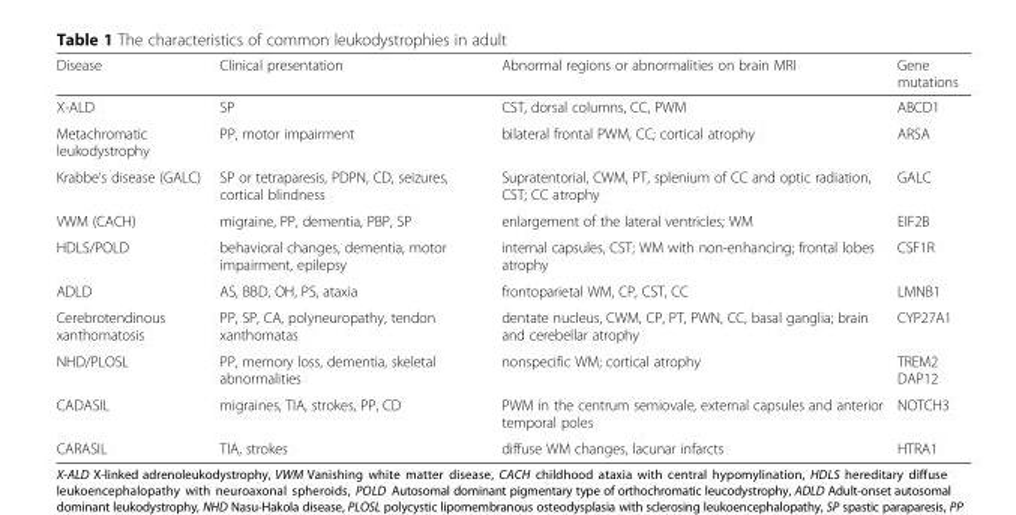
<table><thead><tr><td>Disease</td><td>Clinical presentation</td><td>Abnormal regions or abnormalities on brain MRI</td><td>Gene mutations</td></tr></thead><tbody><tr><td>X-ALD</td><td>SP</td><td>CST, dorsal columns, CC, PWM</td><td>ABCD1</td></tr><tr><td>Metachromatic leukodystrophy</td><td>PP, motor impairment</td><td>bilateral frontal PWM, CC; cortical atrophy</td><td>ARSA</td></tr><tr><td>Krabbe’s disease (GALC)</td><td>SP or tetraparesis, PDPN, CD, seizures, cortical blindness</td><td>Supratentorial, CWM, PT, splenium of CC and optic radiation, CST; CC atrophy</td><td>GALC</td></tr><tr><td>VWM (CACH)</td><td>migraine, PP, dementia, PBP, SP</td><td>enlargement of the lateral ventricles; WM</td><td>EIF2B</td></tr><tr><td>HDLS/POLD</td><td>behavioral changes, dementia, motor impairment, epilepsy</td><td>internal capsules, CST; WM with non-enhancing; frontal lobes atrophy</td><td>CSF1R</td></tr><tr><td>ADLD</td><td>AS, BBD, OH, PS, ataxia</td><td>frontoparietal WM, CP, CST, CC</td><td>LMNB1</td></tr><tr><td>Cerebrotendinous xanthomatosis</td><td>PP, SP, CA, polyneuropathy, tendon xanthomatas</td><td>dentate nucleus, CWM, CP, PT, PWN, CC, basal ganglia; brain and cerebellar atrophy</td><td>CYP27A1</td></tr><tr><td>NHD/PLOSL</td><td>PP, memory loss, dementia, skeletal abnormalities</td><td>nonspecific WM; cortical atrophy</td><td>TREM2 DAP12</td></tr><tr><td>CADASIL</td><td>migraines, TIA, strokes, PP, CD</td><td>PWM in the centrum semiovale, external capsules and anterior temporal poles</td><td>NOTCH3</td></tr><tr><td>CARASIL</td><td>TIA, strokes</td><td>diffuse WM changes, lacunar infarcts</td><td>HTRA1</td></tr></tbody></table>